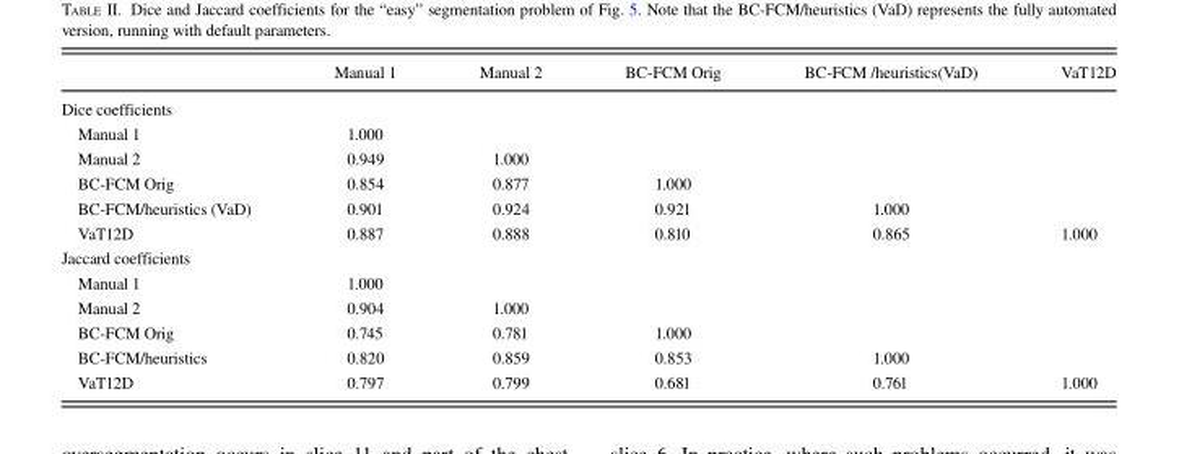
<table><thead><tr><td></td><td>Manual 1</td><td>Manual 2</td><td>BC-FCM Orig</td><td>BC-FCM /heuristics(VaD)</td><td>VaT12D</td></tr></thead><tbody><tr><td colspan="6">Dice coefficients</td></tr><tr><td>Manual 1</td><td>1.000</td><td></td><td></td><td></td><td></td></tr><tr><td>Manual 2</td><td>0.949</td><td>1.000</td><td></td><td></td><td></td></tr><tr><td>BC-FCM Orig</td><td>0.854</td><td>0.877</td><td>1.000</td><td></td><td></td></tr><tr><td>BC-FCM/heuristics (VaD)</td><td>0.901</td><td>0.924</td><td>0.921</td><td>1.000</td><td></td></tr><tr><td>VaT12D</td><td>0.887</td><td>0.888</td><td>0.810</td><td>0.865</td><td>1.000</td></tr><tr><td colspan="6">Jaccard coefficients</td></tr><tr><td>Manual 1</td><td>1.000</td><td></td><td></td><td></td><td></td></tr><tr><td>Manual 2</td><td>0.904</td><td>1.000</td><td></td><td></td><td></td></tr><tr><td>BC-FCM Orig</td><td>0.745</td><td>0.781</td><td>1.000</td><td></td><td></td></tr><tr><td>BC-FCM/heuristics</td><td>0.820</td><td>0.859</td><td>0.853</td><td>1.000</td><td></td></tr><tr><td>VaT12D</td><td>0.797</td><td>0.799</td><td>0.681</td><td>0.761</td><td>1.000</td></tr></tbody></table>